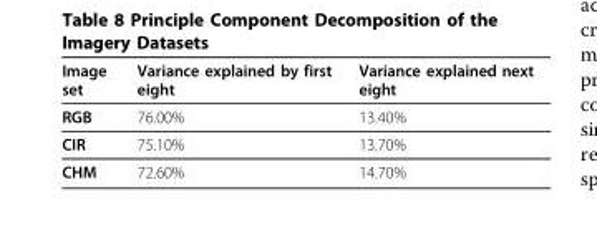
<table><thead><tr><td>Image set</td><td>Variance explained by first eight</td><td>Variance explained next eight</td></tr></thead><tbody><tr><td>RGB</td><td>76.00%</td><td>13.40%</td></tr><tr><td>CIR</td><td>75.10%</td><td>13.70%</td></tr><tr><td>CHM</td><td>72.60%</td><td>14.70%</td></tr></tbody></table>